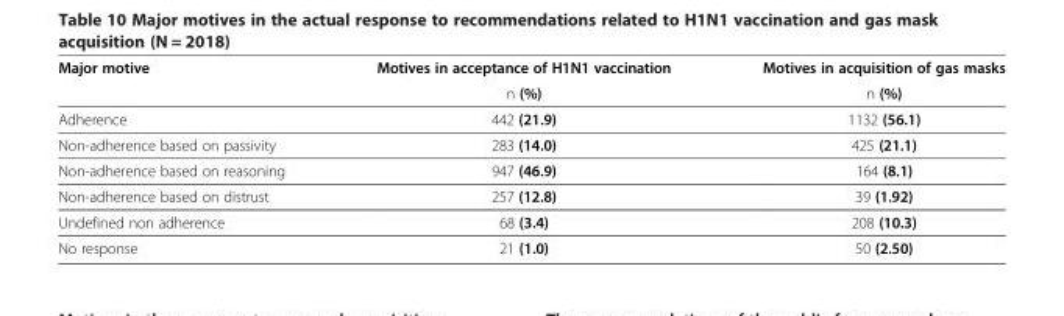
<table><thead><tr><td rowspan="2">Major motive</td><td rowspan="2">Motives in acceptance of H1N1 vaccination n (%)</td><td rowspan="2">Motives in acquisition of gas masks n (%)</td></tr><tr></tr></thead><tbody><tr><td>Adherence</td><td>442 (21.9)</td><td>1132 (56.1)</td></tr><tr><td>Non-adherence based on passivity</td><td>283 (14.0)</td><td>425 (21.1)</td></tr><tr><td>Non-adherence based on reasoning</td><td>947 (46.9)</td><td>164 (8.1)</td></tr><tr><td>Non-adherence based on distrust</td><td>257 (12.8)</td><td>39 (1.92)</td></tr><tr><td>Undefined non adherence</td><td>68 (3.4)</td><td>208 (10.3)</td></tr><tr><td>No response</td><td>21 (1.0)</td><td>50 (2.50)</td></tr></tbody></table>